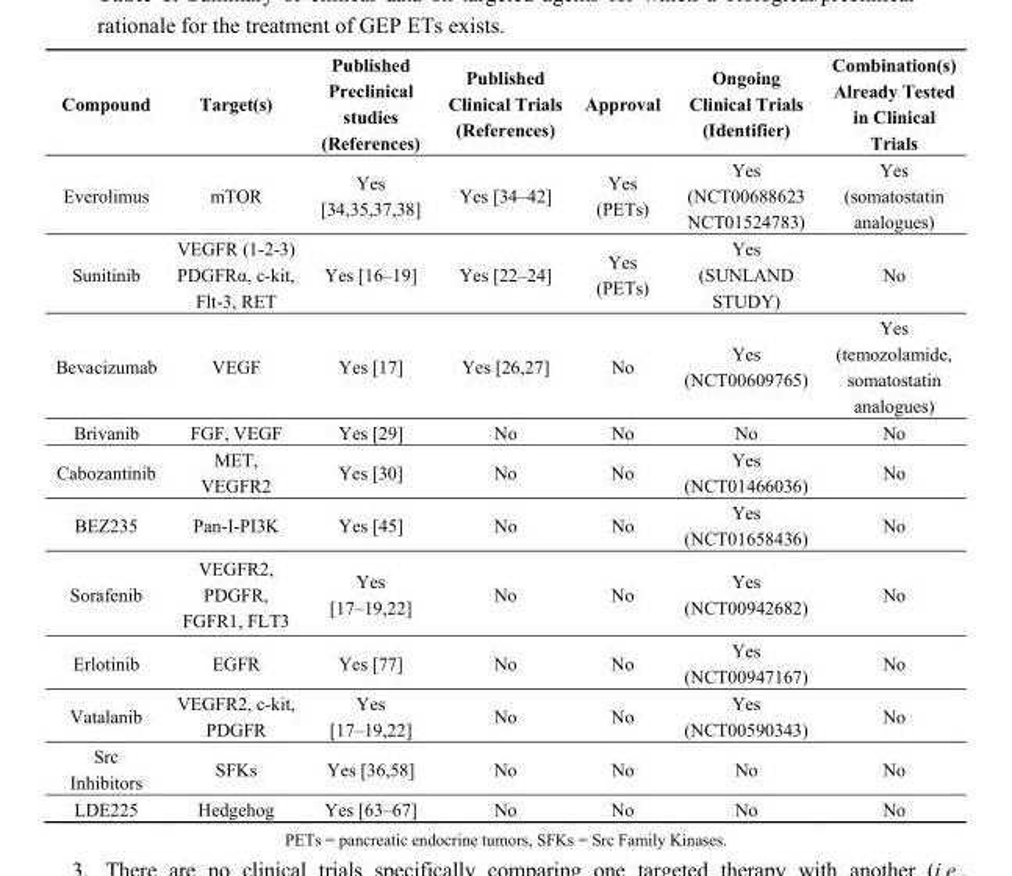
<table><thead><tr><td>Compound</td><td>Target(s)</td><td>Published Preclinical studies (References)</td><td>Published Clinical Trials (References)</td><td>Approval</td><td>Ongoing Clinical Trials (Identifier)</td><td>Combination(s) Already Tested in Clinical Trials</td></tr></thead><tbody><tr><td>Everolimus</td><td>mTOR</td><td>Yes [34,35,37,38]</td><td>Yes [34–42]</td><td>Yes (PETs)</td><td>Yes (NCT00688623 NCT01524783)</td><td>Yes (somatostatin analogues)</td></tr><tr><td>Sunitinib</td><td>VEGFR (1-2-3) PDGFRα, c-kit, Flt-3, RET</td><td>Yes [16–19]</td><td>Yes [22–24]</td><td>Yes (PETs)</td><td>Yes (SUNLAND STUDY)</td><td>No</td></tr><tr><td>Bevacizumab</td><td>VEGF</td><td>Yes [17]</td><td>Yes [26,27]</td><td>No</td><td>Yes (NCT00609765)</td><td>Yes (temozolamide, somatostatin analogues)</td></tr><tr><td>Brivanib</td><td>FGF, VEGF</td><td>Yes [29]</td><td>No</td><td>No</td><td>No</td><td>No</td></tr><tr><td>Cabozantinib</td><td>MET, VEGFR2</td><td>Yes [30]</td><td>No</td><td>No</td><td>Yes (NCT01466036)</td><td>No</td></tr><tr><td>BEZ235</td><td>Pan-I-PI3K</td><td>Yes [45]</td><td>No</td><td>No</td><td>Yes (NCT01658436)</td><td>No</td></tr><tr><td>Sorafenib</td><td>VEGFR2, PDGFR, FGFR1, FLT3</td><td>Yes [17–19,22]</td><td>No</td><td>No</td><td>Yes (NCT00942682)</td><td>No</td></tr><tr><td>Erlotinib</td><td>EGFR</td><td>Yes [77]</td><td>No</td><td>No</td><td>Yes (NCT00947167)</td><td>No</td></tr><tr><td>Vatalanib</td><td>VEGFR2, c-kit, PDGFR</td><td>Yes [17–19,22]</td><td>No</td><td>No</td><td>Yes (NCT00590343)</td><td>No</td></tr><tr><td>Src Inhibitors</td><td>SFKs</td><td>Yes [36,58]</td><td>No</td><td>No</td><td>No</td><td>No</td></tr><tr><td>LDE225</td><td>Hedgehog</td><td>Yes [63–67]</td><td>No</td><td>No</td><td>No</td><td>No</td></tr></tbody></table>